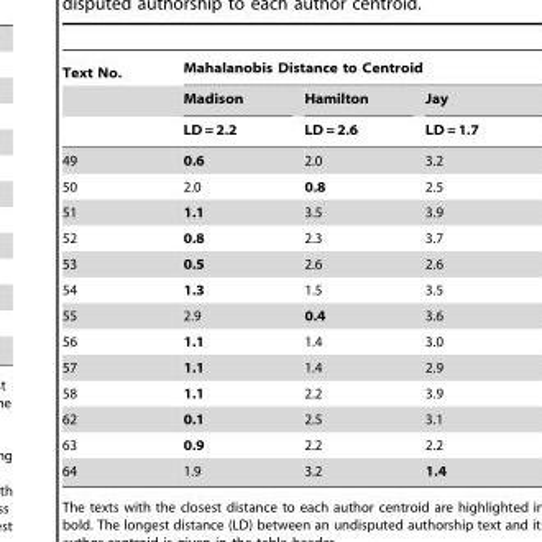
<table><thead><tr><td rowspan="3">Text No.</td><td colspan="3">Mahalanobis Distance to Centroid</td></tr><tr><td rowspan="2">Madison LD = 2.2</td><td rowspan="2">Hamilton LD = 2.6</td><td rowspan="2">Jay LD = 1.7</td></tr><tr></tr></thead><tbody><tr><td>49</td><td>0.6</td><td>2.0</td><td>3.2</td></tr><tr><td>50</td><td>2.0</td><td>0.8</td><td>2.5</td></tr><tr><td>51</td><td>1.1</td><td>3.5</td><td>3.9</td></tr><tr><td>52</td><td>0.8</td><td>2.3</td><td>3.7</td></tr><tr><td>53</td><td>0.5</td><td>2.6</td><td>2.6</td></tr><tr><td>54</td><td>1.3</td><td>1.5</td><td>3.5</td></tr><tr><td>55</td><td>2.9</td><td>0.4</td><td>3.6</td></tr><tr><td>56</td><td>1.1</td><td>1.4</td><td>3.0</td></tr><tr><td>57</td><td>1.1</td><td>1.4</td><td>2.9</td></tr><tr><td>58</td><td>1.1</td><td>2.2</td><td>3.9</td></tr><tr><td>62</td><td>0.1</td><td>2.5</td><td>3.1</td></tr><tr><td>63</td><td>0.9</td><td>2.2</td><td>2.2</td></tr><tr><td>64</td><td>1.9</td><td>3.2</td><td>1.4</td></tr></tbody></table>